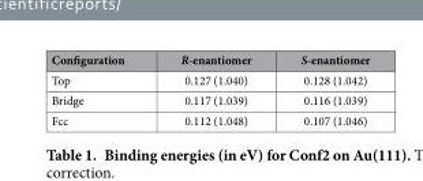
<table><thead><tr><td>Configuration</td><td>R-enantiomer</td><td>S-enantiomer</td></tr></thead><tbody><tr><td>Top</td><td>0.127 (1.040)</td><td>0.128 (1.042)</td></tr><tr><td>Bridge</td><td>0.117 (1.039)</td><td>0.116 (1.039)</td></tr><tr><td>Fcc</td><td>0.112 (1.048)</td><td>0.107 (1.046)</td></tr></tbody></table>